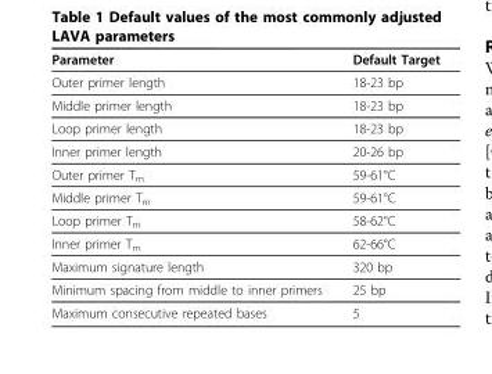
<table><thead><tr><td>Parameter</td><td>Default Target</td></tr></thead><tbody><tr><td>Outer primer length</td><td>18-23 bp</td></tr><tr><td>Middle primer length</td><td>18-23 bp</td></tr><tr><td>Loop primer length</td><td>18-23 bp</td></tr><tr><td>Inner primer length</td><td>20-26 bp</td></tr><tr><td>Outer primer T<sub>m</sub></td><td>59-61°C</td></tr><tr><td>Middle primer T<sub>m</sub></td><td>59-61°C</td></tr><tr><td>Loop primer T<sub>m</sub></td><td>58-62°C</td></tr><tr><td>Inner primer T<sub>m</sub></td><td>62-66°C</td></tr><tr><td>Maximum signature length</td><td>320 bp</td></tr><tr><td>Minimum spacing from middle to inner primers</td><td>25 bp</td></tr><tr><td>Maximum consecutive repeated bases</td><td>5</td></tr></tbody></table>